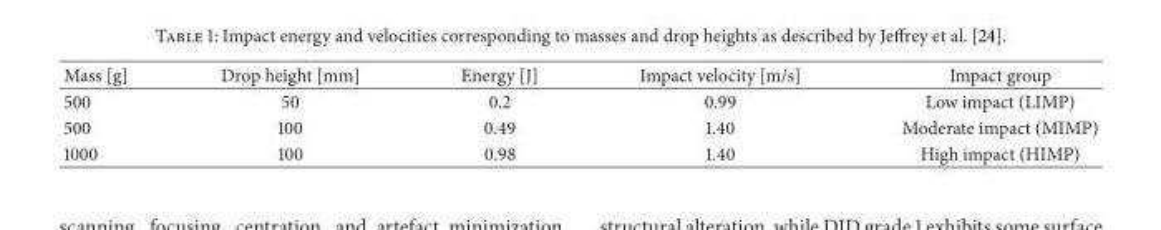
<table><thead><tr><td>Mass [g]</td><td>Drop height [mm]</td><td>Energy [J]</td><td>Impact velocity [m/s]</td><td>Impact group</td></tr></thead><tbody><tr><td>500</td><td>50</td><td>0.2</td><td>0.99</td><td>Low impact (LIMP)</td></tr><tr><td>500</td><td>100</td><td>0.49</td><td>1.40</td><td>Moderate impact (MIMP)</td></tr><tr><td>1000</td><td>100</td><td>0.98</td><td>1.40</td><td>High impact (HIMP)</td></tr></tbody></table>